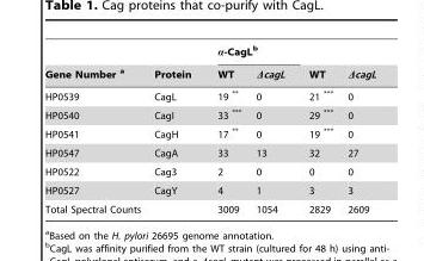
<table><thead><tr><td rowspan="2">Gene Number a</td><td rowspan="2">Protein</td><td colspan="2">α-CagL<sup>b</sup></td><td rowspan="2">WT</td><td rowspan="2">ΔcagL</td></tr><tr><td>WT</td><td>ΔcagL</td></tr></thead><tbody><tr><td>HP0539</td><td>CagL</td><td>19 **</td><td>0</td><td>21 ***</td><td>0</td></tr><tr><td>HP0540</td><td>CagI</td><td>33 ***</td><td>0</td><td>29 ***</td><td>0</td></tr><tr><td>HP0541</td><td>CagH</td><td>17 **</td><td>0</td><td>19 ***</td><td>0</td></tr><tr><td>HP0547</td><td>CagA</td><td>33</td><td>13</td><td>32</td><td>27</td></tr><tr><td>HP0522</td><td>Cag3</td><td>2</td><td>0</td><td>0</td><td>0</td></tr><tr><td>HP0527</td><td>CagY</td><td>4</td><td>1</td><td>3</td><td>3</td></tr><tr><td>Total Spectral Counts</td><td></td><td>3009</td><td>1054</td><td>2829</td><td>2609</td></tr></tbody></table>